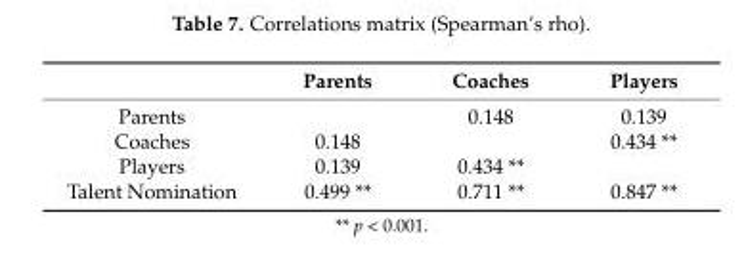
<table><thead><tr><td></td><td>Parents</td><td>Coaches</td><td>Players</td></tr></thead><tbody><tr><td>Parents</td><td></td><td>0.148</td><td>0.139</td></tr><tr><td>Coaches</td><td>0.148</td><td></td><td>0.434 **</td></tr><tr><td>Players</td><td>0.139</td><td>0.434 **</td><td></td></tr><tr><td>Talent Nomination</td><td>0.499 **</td><td>0.711 **</td><td>0.847 **</td></tr></tbody></table>